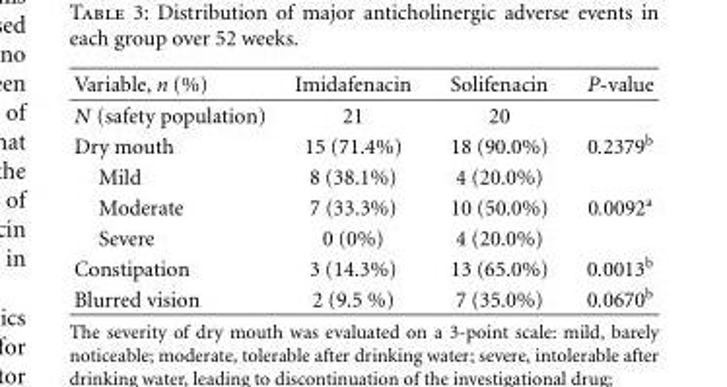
<table><thead><tr><td>Variable, n (%)</td><td>Imidafenacin</td><td>Solifenacin</td><td>P-value</td></tr></thead><tbody><tr><td>N (safety population)</td><td>21</td><td>20</td><td></td></tr><tr><td>Dry mouth</td><td>15 (71.4%)</td><td>18 (90.0%)</td><td>0.2379<sup>b</sup></td></tr><tr><td>Mild</td><td>8 (38.1%)</td><td>4 (20.0%)</td><td></td></tr><tr><td>Moderate</td><td>7 (33.3%)</td><td>10 (50.0%)</td><td>0.0092<sup>a</sup></td></tr><tr><td>Severe</td><td>0 (0%)</td><td>4 (20.0%)</td><td></td></tr><tr><td>Constipation</td><td>3 (14.3%)</td><td>13 (65.0%)</td><td>0.0013<sup>b</sup></td></tr><tr><td>Blurred vision</td><td>2 (9.5 %)</td><td>7 (35.0%)</td><td>0.0670<sup>b</sup></td></tr></tbody></table>